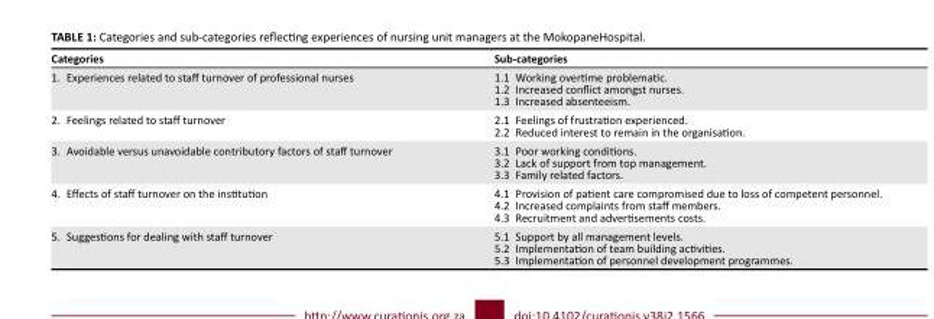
<table><thead><tr><td>Categories</td><td>Sub-categories</td></tr></thead><tbody><tr><td>1. Experiences related to staff turnover of professional nurses</td><td>1.1 Working overtime problematic. 1.2 Increased conflict amongst nurses. 1.3 Increased absenteeism.</td></tr><tr><td>2. Feelings related to staff turnover</td><td>2.1 Feelings of frustration experienced. 2.2 Reduced interest to remain in the organisation.</td></tr><tr><td>3. Avoidable versus unavoidable contributory factors of staff turnover</td><td>3.1 Poor working conditions. 3.2 Lack of support from top management. 3.3 Family related factors.</td></tr><tr><td>4. Effects of staff turnover on the institution</td><td>4.1 Provision of patient care compromised due to loss of competent personnel. 4.2 Increased complaints from staff members. 4.3 Recruitment and advertisements costs.</td></tr><tr><td>5. Suggestions for dealing with staff turnover</td><td>5.1 Support by all management levels. 5.2 Implementation of team building activities. 5.3 Implementation of personnel development programmes.</td></tr></tbody></table>